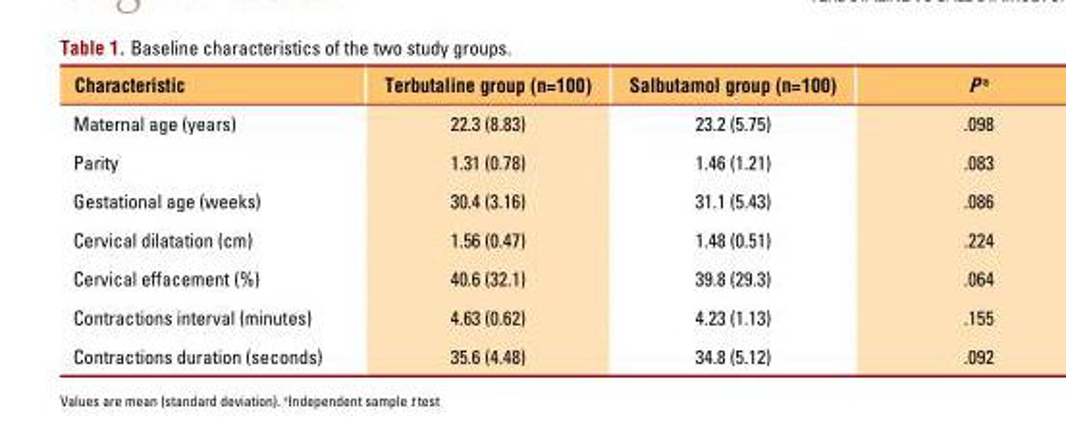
<table><thead><tr><td>Characteristic</td><td>Terbutaline group (n=100)</td><td>Salbutamol group (n=100)</td><td>P <sup>a</sup></td></tr></thead><tbody><tr><td>Maternal age (years)</td><td>22.3 (8.83)</td><td>23.2 (5.75)</td><td>.098</td></tr><tr><td>Parity</td><td>1.31 (0.78)</td><td>1.46 (1.21)</td><td>.083</td></tr><tr><td>Gestational age (weeks)</td><td>30.4 (3.16)</td><td>31.1 (5.43)</td><td>.086</td></tr><tr><td>Cervical dilatation (cm)</td><td>1.56 (0.47)</td><td>1.48 (0.51)</td><td>.224</td></tr><tr><td>Cervical effacement (%)</td><td>40.6 (32.1)</td><td>39.8 (29.3)</td><td>.064</td></tr><tr><td>Contractions interval (minutes)</td><td>4.63 (0.62)</td><td>4.23 (1.13)</td><td>.155</td></tr><tr><td>Contractions duration (seconds)</td><td>35.6 (4.48)</td><td>34.8 (5.12)</td><td>.092</td></tr></tbody></table>